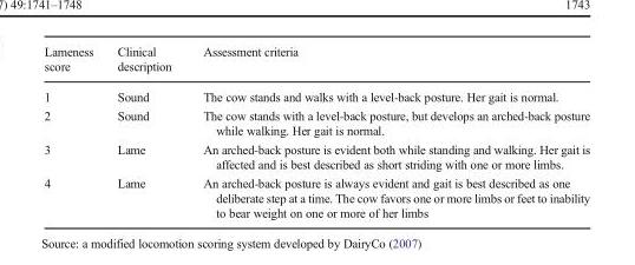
<table><thead><tr><td>Lameness score</td><td>Clinical description</td><td>Assessment criteria</td></tr></thead><tbody><tr><td>1</td><td>Sound</td><td>The cow stands and walks with a level-back posture. Her gait is normal.</td></tr><tr><td>2</td><td>Sound</td><td>The cow stands with a level-back posture, but develops an arched-back posture while walking. Her gait is normal.</td></tr><tr><td>3</td><td>Lame</td><td>An arched-back posture is evident both while standing and walking. Her gait is affected and is best described as short striding with one or more limbs.</td></tr><tr><td>4</td><td>Lame</td><td>An arched-back posture is always evident and gait is best described as one deliberate step at a time. The cow favors one or more limbs or feet to inability to bear weight on one or more of her limbs</td></tr></tbody></table>